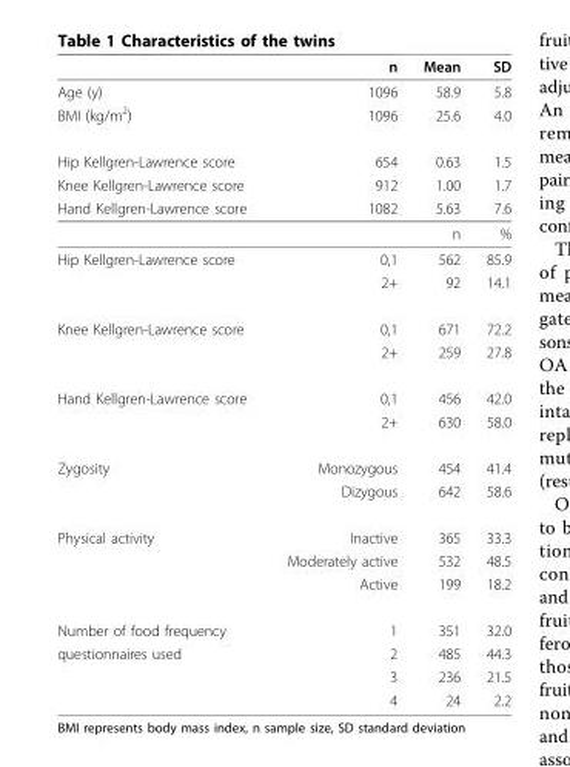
<table><thead><tr><td></td><td>n</td><td>Mean</td><td>SD</td></tr></thead><tbody><tr><td>Age (y)</td><td>1096</td><td>58.9</td><td>5.8</td></tr><tr><td>BMI (kg/m<sup>2</sup>)</td><td>1096</td><td>25.6</td><td>4.0</td></tr><tr><td>Hip Kellgren-Lawrence score</td><td>654</td><td>0.63</td><td>1.5</td></tr><tr><td>Knee Kellgren-Lawrence score</td><td>912</td><td>1.00</td><td>1.7</td></tr><tr><td rowspan="2">Hand Kellgren-Lawrence score</td><td>1082</td><td>5.63</td><td>7.6</td></tr><tr><td></td><td>n</td><td>%</td></tr><tr><td rowspan="2">Hip Kellgren-Lawrence score</td><td>0,1</td><td>562</td><td>85.9</td></tr><tr><td>2+</td><td>92</td><td>14.1</td></tr><tr><td rowspan="2">Knee Kellgren-Lawrence score</td><td>0,1</td><td>671</td><td>72.2</td></tr><tr><td>2+</td><td>259</td><td>27.8</td></tr><tr><td rowspan="2">Hand Kellgren-Lawrence score</td><td>0,1</td><td>456</td><td>42.0</td></tr><tr><td>2+</td><td>630</td><td>58.0</td></tr><tr><td rowspan="2">Zygosity</td><td>Monozygous</td><td>454</td><td>41.4</td></tr><tr><td>Dizygous</td><td>642</td><td>58.6</td></tr><tr><td rowspan="3">Physical activity</td><td>Inactive</td><td>365</td><td>33.3</td></tr><tr><td>Moderately active</td><td>532</td><td>48.5</td></tr><tr><td>Active</td><td>199</td><td>18.2</td></tr><tr><td>Number of food frequency</td><td>1</td><td>351</td><td>32.0</td></tr><tr><td rowspan="3">questionnaires used</td><td>2</td><td>485</td><td>44.3</td></tr><tr><td>3</td><td>236</td><td>21.5</td></tr><tr><td>4</td><td>24</td><td>2.2</td></tr></tbody></table>